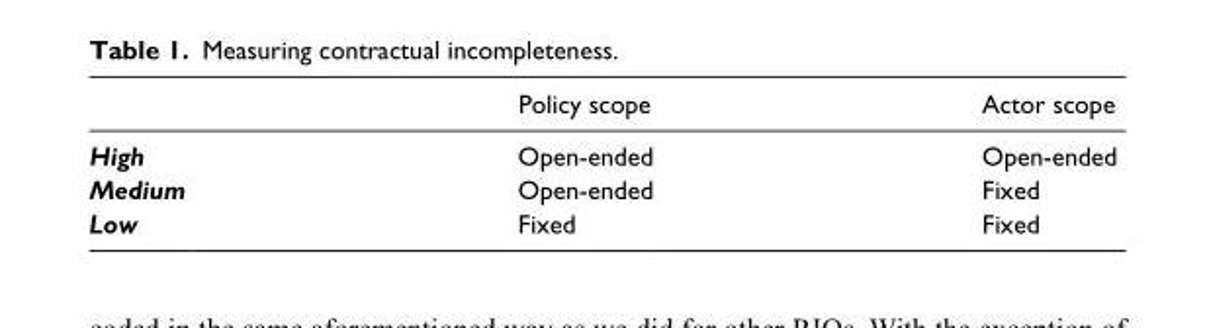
<table><thead><tr><td></td><td>Policy scope</td><td>Actor scope</td></tr></thead><tbody><tr><td>High</td><td>Open-ended</td><td>Open-ended</td></tr><tr><td>Medium</td><td>Open-ended</td><td>Fixed</td></tr><tr><td>Low</td><td>Fixed</td><td>Fixed</td></tr></tbody></table>